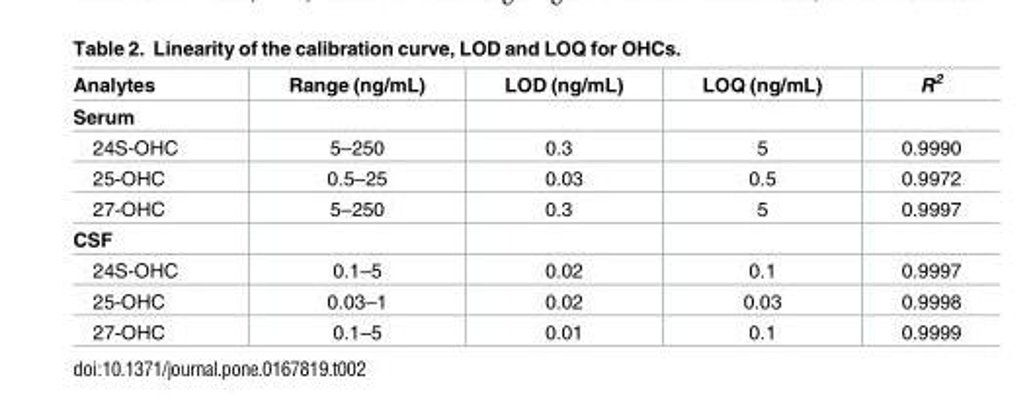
<table><thead><tr><td>Analytes</td><td>Range (ng/mL)</td><td>LOD (ng/mL)</td><td>LOQ (ng/mL)</td><td>R<sup>2</sup></td></tr></thead><tbody><tr><td colspan="5">Serum</td></tr><tr><td>24S-OHC</td><td>5–250</td><td>0.3</td><td>5</td><td>0.9990</td></tr><tr><td>25-OHC</td><td>0.5–25</td><td>0.03</td><td>0.5</td><td>0.9972</td></tr><tr><td>27-OHC</td><td>5–250</td><td>0.3</td><td>5</td><td>0.9997</td></tr><tr><td colspan="5">CSF</td></tr><tr><td>24S-OHC</td><td>0.1–5</td><td>0.02</td><td>0.1</td><td>0.9997</td></tr><tr><td>25-OHC</td><td>0.03–1</td><td>0.02</td><td>0.03</td><td>0.9998</td></tr><tr><td>27-OHC</td><td>0.1–5</td><td>0.01</td><td>0.1</td><td>0.9999</td></tr></tbody></table>